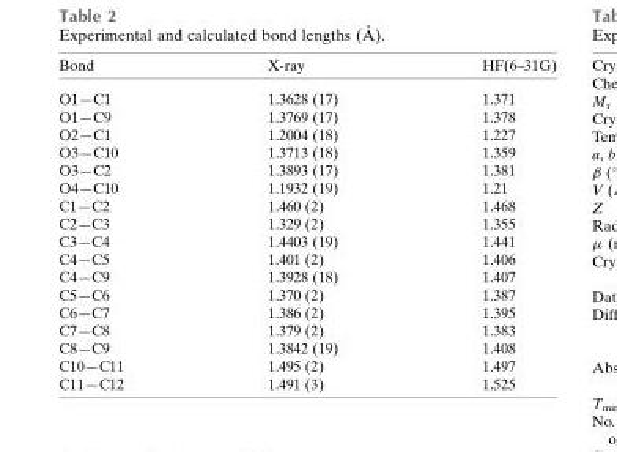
<table><thead><tr><td>Bond</td><td>X-ray</td><td>HF(6–31G)</td></tr></thead><tbody><tr><td>O1—C1</td><td>1.3628 (17)</td><td>1.371</td></tr><tr><td>O1—C9</td><td>1.3769 (17)</td><td>1.378</td></tr><tr><td>O2—C1</td><td>1.2004 (18)</td><td>1.227</td></tr><tr><td>O3—C10</td><td>1.3713 (18)</td><td>1.359</td></tr><tr><td>O3—C2</td><td>1.3893 (17)</td><td>1.381</td></tr><tr><td>O4—C10</td><td>1.1932 (19)</td><td>1.21</td></tr><tr><td>C1—C2</td><td>1.460 (2)</td><td>1.468</td></tr><tr><td>C2—C3</td><td>1.329 (2)</td><td>1.355</td></tr><tr><td>C3—C4</td><td>1.4403 (19)</td><td>1.441</td></tr><tr><td>C4—C5</td><td>1.401 (2)</td><td>1.406</td></tr><tr><td>C4—C9</td><td>1.3928 (18)</td><td>1.407</td></tr><tr><td>C5—C6</td><td>1.370 (2)</td><td>1.387</td></tr><tr><td>C6—C7</td><td>1.386 (2)</td><td>1.395</td></tr><tr><td>C7—C8</td><td>1.379 (2)</td><td>1.383</td></tr><tr><td>C8—C9</td><td>1.3842 (19)</td><td>1.408</td></tr><tr><td>C10—C11</td><td>1.495 (2)</td><td>1.497</td></tr><tr><td>C11—C12</td><td>1.491 (3)</td><td>1.525</td></tr></tbody></table>